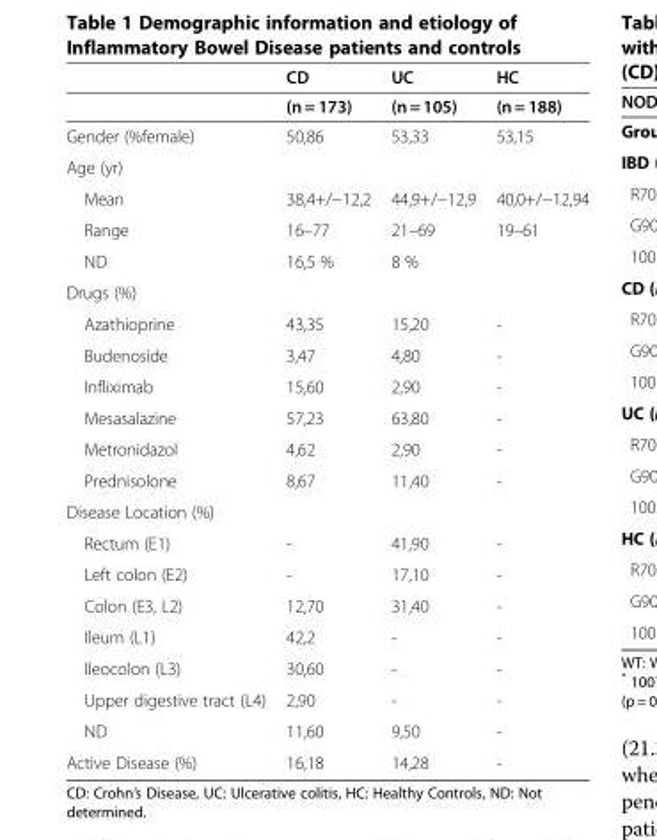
<table><thead><tr><td rowspan="2"></td><td rowspan="2">CD (n = 173)</td><td rowspan="2">UC (n = 105)</td><td rowspan="2">HC (n = 188)</td></tr><tr></tr></thead><tbody><tr><td>Gender (%female)</td><td>50,86</td><td>53,33</td><td>53,15</td></tr><tr><td colspan="4">Age (yr)</td></tr><tr><td>Mean</td><td>38,4+/−12,2</td><td>44,9+/−12,9</td><td>40,0+/−12,94</td></tr><tr><td>Range</td><td>16–77</td><td>21–69</td><td>19–61</td></tr><tr><td>ND</td><td>16,5 %</td><td>8 %</td><td></td></tr><tr><td colspan="4">Drugs (%)</td></tr><tr><td>Azathioprine</td><td>43,35</td><td>15,20</td><td>-</td></tr><tr><td>Budenoside</td><td>3,47</td><td>4,80</td><td>-</td></tr><tr><td>Infliximab</td><td>15,60</td><td>2,90</td><td>-</td></tr><tr><td>Mesasalazine</td><td>57,23</td><td>63,80</td><td>-</td></tr><tr><td>Metronidazol</td><td>4,62</td><td>2,90</td><td>-</td></tr><tr><td>Prednisolone</td><td>8,67</td><td>11,40</td><td>-</td></tr><tr><td colspan="4">Disease Location (%)</td></tr><tr><td>Rectum (E1)</td><td>-</td><td>41,90</td><td>-</td></tr><tr><td>Left colon (E2)</td><td>-</td><td>17,10</td><td>-</td></tr><tr><td>Colon (E3, L2)</td><td>12,70</td><td>31,40</td><td>-</td></tr><tr><td>Ileum (L1)</td><td>42,2</td><td>-</td><td>-</td></tr><tr><td>Ileocolon (L3)</td><td>30,60</td><td>-</td><td>-</td></tr><tr><td>Upper digestive tract (L4)</td><td>2,90</td><td>-</td><td>-</td></tr><tr><td>ND</td><td>11,60</td><td>9,50</td><td>-</td></tr><tr><td>Active Disease (%)</td><td>16,18</td><td>14,28</td><td>-</td></tr></tbody></table>